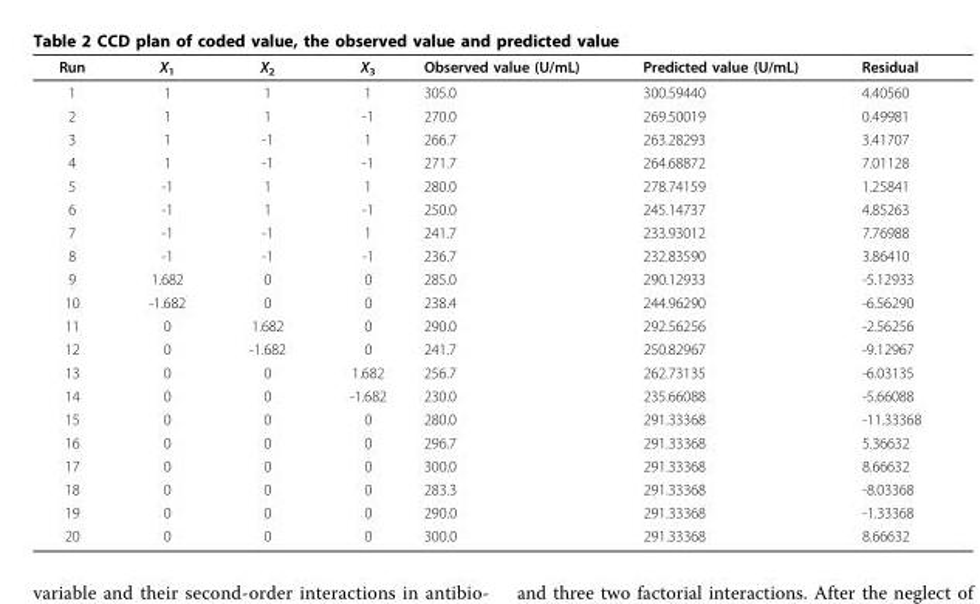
<table><thead><tr><td>Run</td><td>X<sub>1</sub></td><td>X<sub>2</sub></td><td>X<sub>3</sub></td><td>Observed value (U/mL)</td><td>Predicted value (U/mL)</td><td>Residual</td></tr></thead><tbody><tr><td>1</td><td>1</td><td>1</td><td>1</td><td>305.0</td><td>300.59440</td><td>4.40560</td></tr><tr><td>2</td><td>1</td><td>1</td><td>-1</td><td>270.0</td><td>269.50019</td><td>0.49981</td></tr><tr><td>3</td><td>1</td><td>-1</td><td>1</td><td>266.7</td><td>263.28293</td><td>3.41707</td></tr><tr><td>4</td><td>1</td><td>-1</td><td>-1</td><td>271.7</td><td>264.68872</td><td>7.01128</td></tr><tr><td>5</td><td>-1</td><td>1</td><td>1</td><td>280.0</td><td>278.74159</td><td>1.25841</td></tr><tr><td>6</td><td>-1</td><td>1</td><td>-1</td><td>250.0</td><td>245.14737</td><td>4.85263</td></tr><tr><td>7</td><td>-1</td><td>-1</td><td>1</td><td>241.7</td><td>233.93012</td><td>7.76988</td></tr><tr><td>8</td><td>-1</td><td>-1</td><td>-1</td><td>236.7</td><td>232.83590</td><td>3.86410</td></tr><tr><td>9</td><td>1.682</td><td>0</td><td>0</td><td>285.0</td><td>290.12933</td><td>-5.12933</td></tr><tr><td>10</td><td>-1.682</td><td>0</td><td>0</td><td>238.4</td><td>244.96290</td><td>-6.56290</td></tr><tr><td>11</td><td>0</td><td>1.682</td><td>0</td><td>290.0</td><td>292.56256</td><td>-2.56256</td></tr><tr><td>12</td><td>0</td><td>-1.682</td><td>0</td><td>241.7</td><td>250.82967</td><td>-9.12967</td></tr><tr><td>13</td><td>0</td><td>0</td><td>1.682</td><td>256.7</td><td>262.73135</td><td>-6.03135</td></tr><tr><td>14</td><td>0</td><td>0</td><td>-1.682</td><td>230.0</td><td>235.66088</td><td>-5.66088</td></tr><tr><td>15</td><td>0</td><td>0</td><td>0</td><td>280.0</td><td>291.33368</td><td>-11.33368</td></tr><tr><td>16</td><td>0</td><td>0</td><td>0</td><td>296.7</td><td>291.33368</td><td>5.36632</td></tr><tr><td>17</td><td>0</td><td>0</td><td>0</td><td>300.0</td><td>291.33368</td><td>8.66632</td></tr><tr><td>18</td><td>0</td><td>0</td><td>0</td><td>283.3</td><td>291.33368</td><td>-8.03368</td></tr><tr><td>19</td><td>0</td><td>0</td><td>0</td><td>290.0</td><td>291.33368</td><td>-1.33368</td></tr><tr><td>20</td><td>0</td><td>0</td><td>0</td><td>300.0</td><td>291.33368</td><td>8.66632</td></tr></tbody></table>